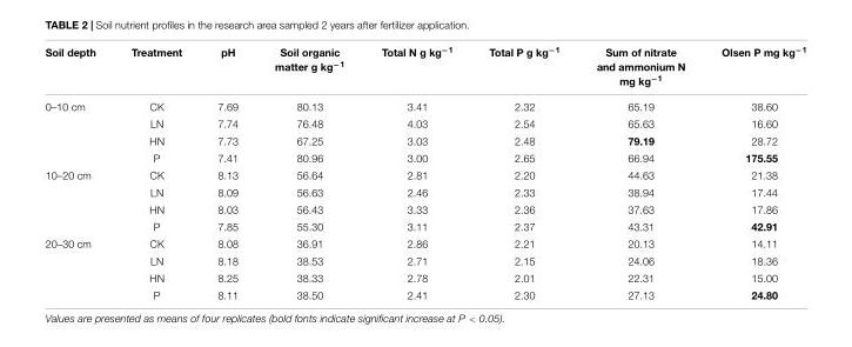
<table><thead><tr><td>Soil depth</td><td>Treatment</td><td>pH</td><td>Soil organic matter g kg<sup>−1</sup></td><td>Total N g kg<sup>−1</sup></td><td>Total P g kg<sup>−1</sup></td><td>Sum of nitrate and ammonium N mg kg<sup>−1</sup></td><td>Olsen P mg kg<sup>−1</sup></td></tr></thead><tbody><tr><td rowspan="4">0–10 cm</td><td>CK</td><td>7.69</td><td>80.13</td><td>3.41</td><td>2.32</td><td>65.19</td><td>38.60</td></tr><tr><td>LN</td><td>7.74</td><td>76.48</td><td>4.03</td><td>2.54</td><td>65.63</td><td>16.60</td></tr><tr><td>HN</td><td>7.73</td><td>67.25</td><td>3.03</td><td>2.48</td><td>79.19</td><td>28.72</td></tr><tr><td>P</td><td>7.41</td><td>80.96</td><td>3.00</td><td>2.65</td><td>66.94</td><td>175.55</td></tr><tr><td rowspan="4">10–20 cm</td><td>CK</td><td>8.13</td><td>56.64</td><td>2.81</td><td>2.20</td><td>44.63</td><td>21.38</td></tr><tr><td>LN</td><td>8.09</td><td>56.63</td><td>2.46</td><td>2.33</td><td>38.94</td><td>17.44</td></tr><tr><td>HN</td><td>8.03</td><td>56.43</td><td>3.33</td><td>2.36</td><td>37.63</td><td>17.86</td></tr><tr><td>P</td><td>7.85</td><td>55.30</td><td>3.11</td><td>2.37</td><td>43.31</td><td>42.91</td></tr><tr><td rowspan="4">20–30 cm</td><td>CK</td><td>8.08</td><td>36.91</td><td>2.86</td><td>2.21</td><td>20.13</td><td>14.11</td></tr><tr><td>LN</td><td>8.18</td><td>38.53</td><td>2.71</td><td>2.15</td><td>24.06</td><td>18.36</td></tr><tr><td>HN</td><td>8.25</td><td>38.33</td><td>2.78</td><td>2.01</td><td>22.31</td><td>15.00</td></tr><tr><td>P</td><td>8.11</td><td>38.50</td><td>2.41</td><td>2.30</td><td>27.13</td><td>24.80</td></tr></tbody></table>